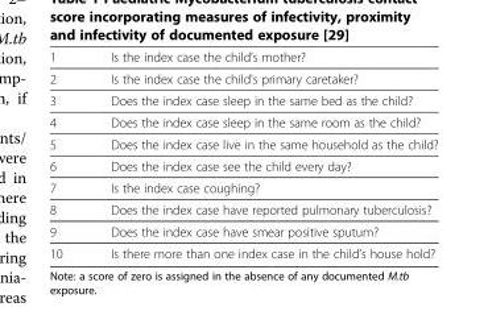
<table><tbody><tr><td>1</td><td>Is the index case the child’s mother?</td></tr><tr><td>2</td><td>Is the index case the child’s primary caretaker?</td></tr><tr><td>3</td><td>Does the index case sleep in the same bed as the child?</td></tr><tr><td>4</td><td>Does the index case sleep in the same room as the child?</td></tr><tr><td>5</td><td>Does the index case live in the same household as the child?</td></tr><tr><td>6</td><td>Does the index case see the child every day?</td></tr><tr><td>7</td><td>Is the index case coughing?</td></tr><tr><td>8</td><td>Does the index case have reported pulmonary tuberculosis?</td></tr><tr><td>9</td><td>Does the index case have smear positive sputum?</td></tr><tr><td>10</td><td>Is there more than one index case in the child’s house hold?</td></tr></tbody></table>